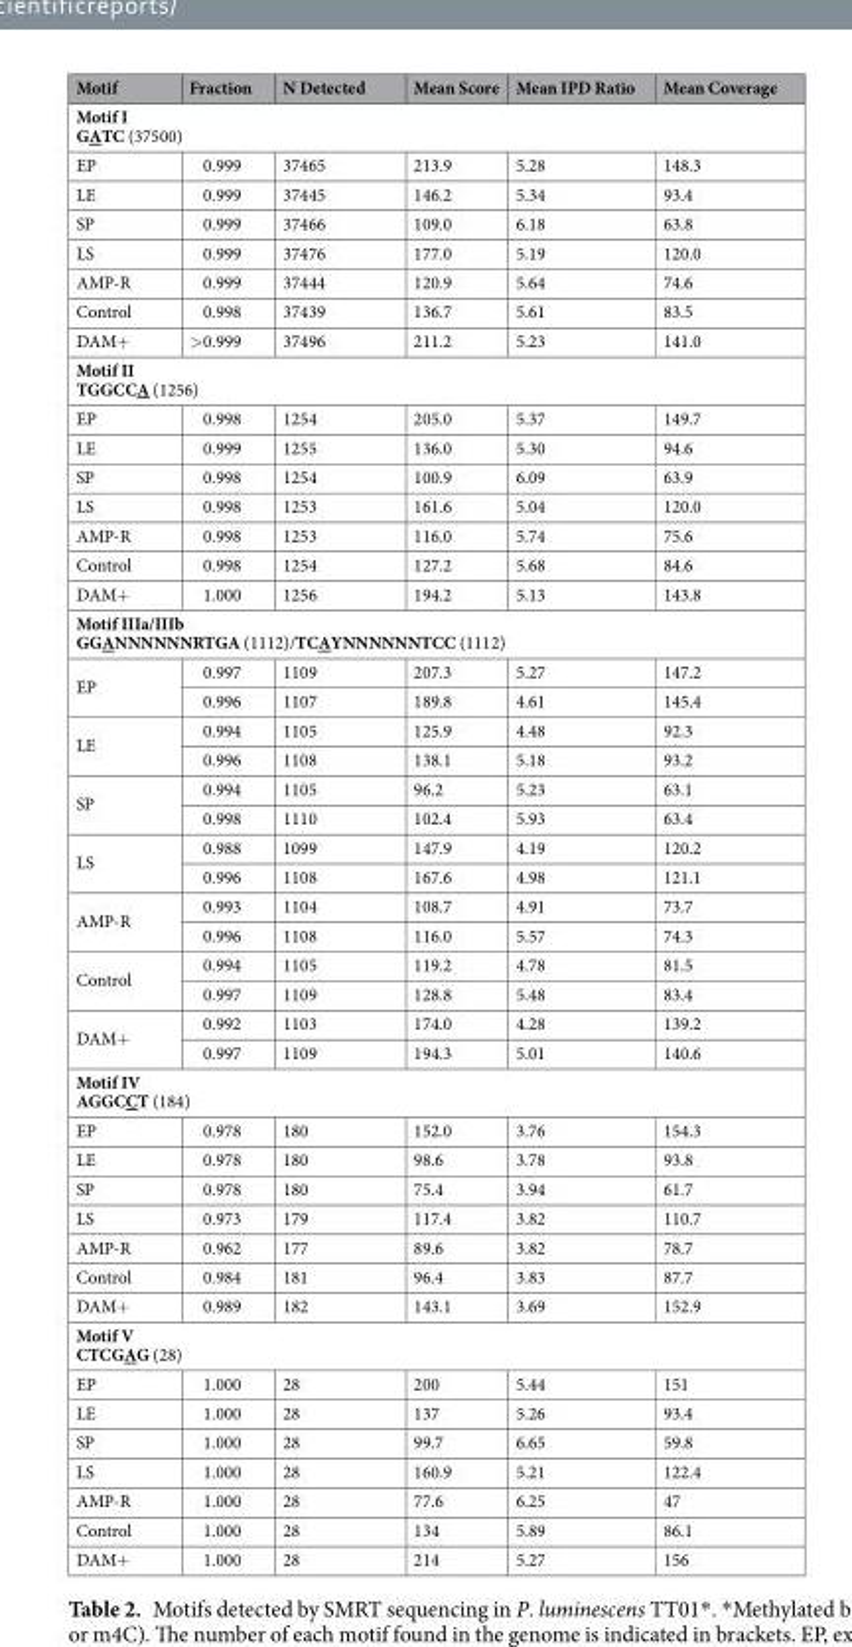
<table><thead><tr><td>Motif</td><td>Fraction</td><td>N Detected</td><td>Mean Score</td><td>Mean IPD Ratio</td><td>Mean Coverage</td></tr></thead><tbody><tr><td colspan="6">Motif I GATC (37500)</td></tr><tr><td>EP</td><td>0.999</td><td>37465</td><td>213.9</td><td>5.28</td><td>148.3</td></tr><tr><td>LE</td><td>0.999</td><td>37445</td><td>146.2</td><td>5.34</td><td>93.4</td></tr><tr><td>SP</td><td>0.999</td><td>37466</td><td>109.0</td><td>6.18</td><td>63.8</td></tr><tr><td>LS</td><td>0.999</td><td>37476</td><td>177.0</td><td>5.19</td><td>120.0</td></tr><tr><td>AMP-R</td><td>0.999</td><td>37444</td><td>120.9</td><td>5.64</td><td>74.6</td></tr><tr><td>Control</td><td>0.998</td><td>37439</td><td>136.7</td><td>5.61</td><td>83.5</td></tr><tr><td>DAM+</td><td>&gt;0.999</td><td>37496</td><td>211.2</td><td>5.23</td><td>141.0</td></tr><tr><td colspan="6">Motif II TGGCCA (1256)</td></tr><tr><td>EP</td><td>0.998</td><td>1254</td><td>205.0</td><td>5.37</td><td>149.7</td></tr><tr><td>LE</td><td>0.999</td><td>1255</td><td>136.0</td><td>5.30</td><td>94.6</td></tr><tr><td>SP</td><td>0.998</td><td>1254</td><td>100.9</td><td>6.09</td><td>63.9</td></tr><tr><td>LS</td><td>0.998</td><td>1253</td><td>161.6</td><td>5.04</td><td>120.0</td></tr><tr><td>AMP-R</td><td>0.998</td><td>1253</td><td>116.0</td><td>5.74</td><td>75.6</td></tr><tr><td>Control</td><td>0.998</td><td>1254</td><td>127.2</td><td>5.68</td><td>84.6</td></tr><tr><td>DAM+</td><td>1.000</td><td>1256</td><td>194.2</td><td>5.13</td><td>143.8</td></tr><tr><td colspan="6">Motif IIIa/IIIb GGANNNNNNRTGA (1112)/TCAYNNNNNNTCC (1112)</td></tr><tr><td rowspan="2">EP</td><td>0.997</td><td>1109</td><td>207.3</td><td>5.27</td><td>147.2</td></tr><tr><td>0.996</td><td>1107</td><td>189.8</td><td>4.61</td><td>145.4</td></tr><tr><td rowspan="2">LE</td><td>0.994</td><td>1105</td><td>125.9</td><td>4.48</td><td>92.3</td></tr><tr><td>0.996</td><td>1108</td><td>138.1</td><td>5.18</td><td>93.2</td></tr><tr><td rowspan="2">SP</td><td>0.994</td><td>1105</td><td>96.2</td><td>5.23</td><td>63.1</td></tr><tr><td>0.998</td><td>1110</td><td>102.4</td><td>5.93</td><td>63.4</td></tr><tr><td rowspan="2">LS</td><td>0.988</td><td>1099</td><td>147.9</td><td>4.19</td><td>120.2</td></tr><tr><td>0.996</td><td>1108</td><td>167.6</td><td>4.98</td><td>121.1</td></tr><tr><td rowspan="2">AMP-R</td><td>0.993</td><td>1104</td><td>108.7</td><td>4.91</td><td>73.7</td></tr><tr><td>0.996</td><td>1108</td><td>116.0</td><td>5.57</td><td>74.3</td></tr><tr><td rowspan="2">Control</td><td>0.994</td><td>1105</td><td>119.2</td><td>4.78</td><td>81.5</td></tr><tr><td>0.997</td><td>1109</td><td>128.8</td><td>5.48</td><td>83.4</td></tr><tr><td rowspan="2">DAM+</td><td>0.992</td><td>1103</td><td>174.0</td><td>4.28</td><td>139.2</td></tr><tr><td>0.997</td><td>1109</td><td>194.3</td><td>5.01</td><td>140.6</td></tr><tr><td colspan="6">Motif IV AGGCCT (184)</td></tr><tr><td>EP</td><td>0.978</td><td>180</td><td>152.0</td><td>3.76</td><td>154.3</td></tr><tr><td>LE</td><td>0.978</td><td>180</td><td>98.6</td><td>3.78</td><td>93.8</td></tr><tr><td>SP</td><td>0.978</td><td>180</td><td>75.4</td><td>3.94</td><td>61.7</td></tr><tr><td>LS</td><td>0.973</td><td>179</td><td>117.4</td><td>3.82</td><td>110.7</td></tr><tr><td>AMP-R</td><td>0.962</td><td>177</td><td>89.6</td><td>3.82</td><td>78.7</td></tr><tr><td>Control</td><td>0.984</td><td>181</td><td>96.4</td><td>3.83</td><td>87.7</td></tr><tr><td>DAM+</td><td>0.989</td><td>182</td><td>143.1</td><td>3.69</td><td>152.9</td></tr><tr><td colspan="6">Motif V CTCGAG (28)</td></tr><tr><td>EP</td><td>1.000</td><td>28</td><td>200</td><td>5.44</td><td>151</td></tr><tr><td>LE</td><td>1.000</td><td>28</td><td>137</td><td>5.26</td><td>93.4</td></tr><tr><td>SP</td><td>1.000</td><td>28</td><td>99.7</td><td>6.65</td><td>59.8</td></tr><tr><td>LS</td><td>1.000</td><td>28</td><td>160.9</td><td>5.21</td><td>122.4</td></tr><tr><td>AMP-R</td><td>1.000</td><td>28</td><td>77.6</td><td>6.25</td><td>47</td></tr><tr><td>Control</td><td>1.000</td><td>28</td><td>134</td><td>5.89</td><td>86.1</td></tr><tr><td>DAM+</td><td>1.000</td><td>28</td><td>214</td><td>5.27</td><td>156</td></tr></tbody></table>